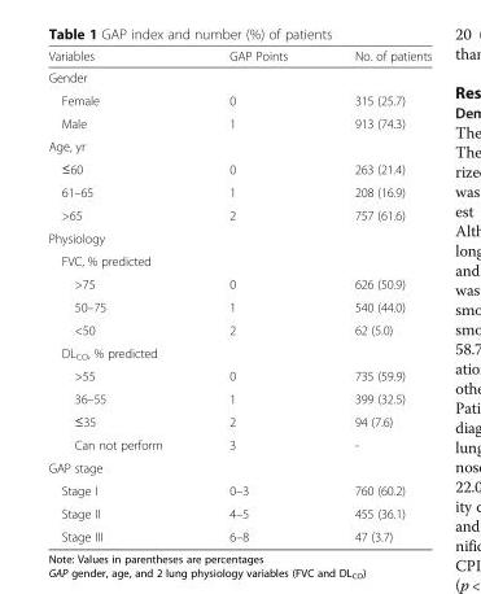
<table><thead><tr><td>Variables</td><td>GAP Points</td><td>No. of patients</td></tr></thead><tbody><tr><td colspan="3">Gender</td></tr><tr><td>Female</td><td>0</td><td>315 (25.7)</td></tr><tr><td>Male</td><td>1</td><td>913 (74.3)</td></tr><tr><td colspan="3">Age, yr</td></tr><tr><td>≤60</td><td>0</td><td>263 (21.4)</td></tr><tr><td>61–65</td><td>1</td><td>208 (16.9)</td></tr><tr><td>&gt;65</td><td>2</td><td>757 (61.6)</td></tr><tr><td colspan="3">Physiology</td></tr><tr><td colspan="3">FVC, % predicted</td></tr><tr><td>&gt;75</td><td>0</td><td>626 (50.9)</td></tr><tr><td>50–75</td><td>1</td><td>540 (44.0)</td></tr><tr><td>&lt;50</td><td>2</td><td>62 (5.0)</td></tr><tr><td colspan="3">DL<sub>CO</sub>, % predicted</td></tr><tr><td>&gt;55</td><td>0</td><td>735 (59.9)</td></tr><tr><td>36–55</td><td>1</td><td>399 (32.5)</td></tr><tr><td>≤35</td><td>2</td><td>94 (7.6)</td></tr><tr><td>Can not perform</td><td>3</td><td>-</td></tr><tr><td colspan="3">GAP stage</td></tr><tr><td>Stage I</td><td>0–3</td><td>760 (60.2)</td></tr><tr><td>Stage II</td><td>4–5</td><td>455 (36.1)</td></tr><tr><td>Stage III</td><td>6–8</td><td>47 (3.7)</td></tr></tbody></table>